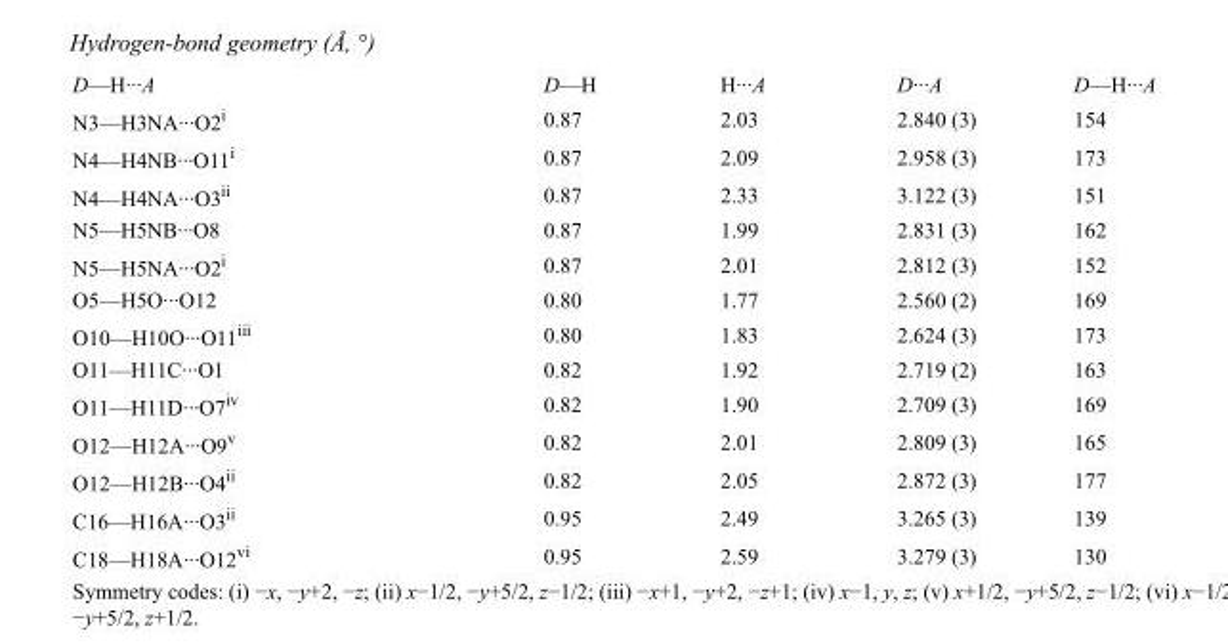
<table><tbody><tr><td>D—H···A</td><td>D—H</td><td>H···A</td><td>D···A</td><td>D—H···A</td></tr><tr><td>N3—H3NA···O2<sup>i</sup></td><td>0.87</td><td>2.03</td><td>2.840 (3)</td><td>154</td></tr><tr><td>N4—H4NB···O11<sup>i</sup></td><td>0.87</td><td>2.09</td><td>2.958 (3)</td><td>173</td></tr><tr><td>N4—H4NA···O3<sup>ii</sup></td><td>0.87</td><td>2.33</td><td>3.122 (3)</td><td>151</td></tr><tr><td>N5—H5NB···O8</td><td>0.87</td><td>1.99</td><td>2.831 (3)</td><td>162</td></tr><tr><td>N5—H5NA···O2<sup>i</sup></td><td>0.87</td><td>2.01</td><td>2.812 (3)</td><td>152</td></tr><tr><td>O5—H5O···O12</td><td>0.80</td><td>1.77</td><td>2.560 (2)</td><td>169</td></tr><tr><td>O10—H10O···O11<sup>iii</sup></td><td>0.80</td><td>1.83</td><td>2.624 (3)</td><td>173</td></tr><tr><td>O11—H11C···O1</td><td>0.82</td><td>1.92</td><td>2.719 (2)</td><td>163</td></tr><tr><td>O11—H11D···O7<sup>iv</sup></td><td>0.82</td><td>1.90</td><td>2.709 (3)</td><td>169</td></tr><tr><td>O12—H12A···O9<sup>v</sup></td><td>0.82</td><td>2.01</td><td>2.809 (3)</td><td>165</td></tr><tr><td>O12—H12B···O4<sup>ii</sup></td><td>0.82</td><td>2.05</td><td>2.872 (3)</td><td>177</td></tr><tr><td>C16—H16A···O3<sup>ii</sup></td><td>0.95</td><td>2.49</td><td>3.265 (3)</td><td>139</td></tr><tr><td>C18—H18A···O12<sup>vi</sup></td><td>0.95</td><td>2.59</td><td>3.279 (3)</td><td>130</td></tr></tbody></table>